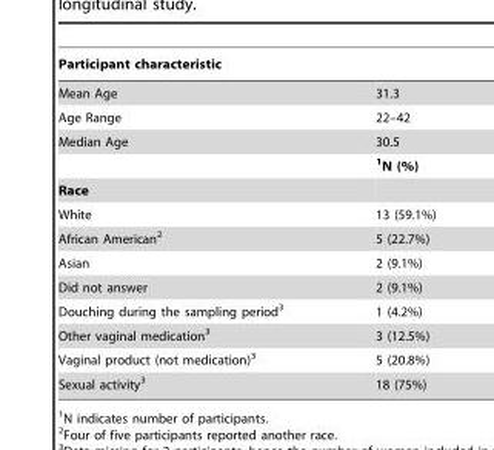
<table><thead><tr><td>Participant characteristic</td><td></td></tr></thead><tbody><tr><td>Mean Age</td><td>31.3</td></tr><tr><td>Age Range</td><td>22–42</td></tr><tr><td rowspan="2">Median Age</td><td>30.5</td></tr><tr><td>1N (%)</td></tr><tr><td colspan="2">Race</td></tr><tr><td>White</td><td>13 (59.1%)</td></tr><tr><td>African American<sup>2</sup></td><td>5 (22.7%)</td></tr><tr><td>Asian</td><td>2 (9.1%)</td></tr><tr><td>Did not answer</td><td>2 (9.1%)</td></tr><tr><td>Douching during the sampling period<sup>3</sup></td><td>1 (4.2%)</td></tr><tr><td>Other vaginal medication<sup>3</sup></td><td>3 (12.5%)</td></tr><tr><td>Vaginal product (not medication)<sup>3</sup></td><td>5 (20.8%)</td></tr><tr><td>Sexual activity<sup>3</sup></td><td>18 (75%)</td></tr></tbody></table>